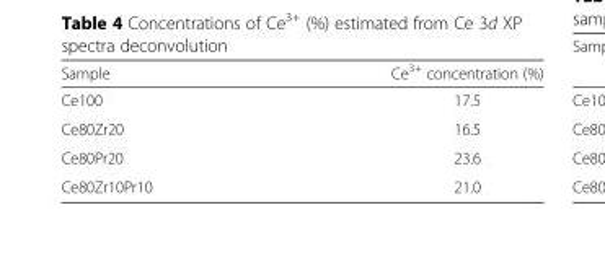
<table><thead><tr><td>Sample</td><td>Ce<sup>3+</sup> concentration (%)</td></tr></thead><tbody><tr><td>Ce100</td><td>17.5</td></tr><tr><td>Ce80Zr20</td><td>16.5</td></tr><tr><td>Ce80Pr20</td><td>23.6</td></tr><tr><td>Ce80Zr10Pr10</td><td>21.0</td></tr></tbody></table>